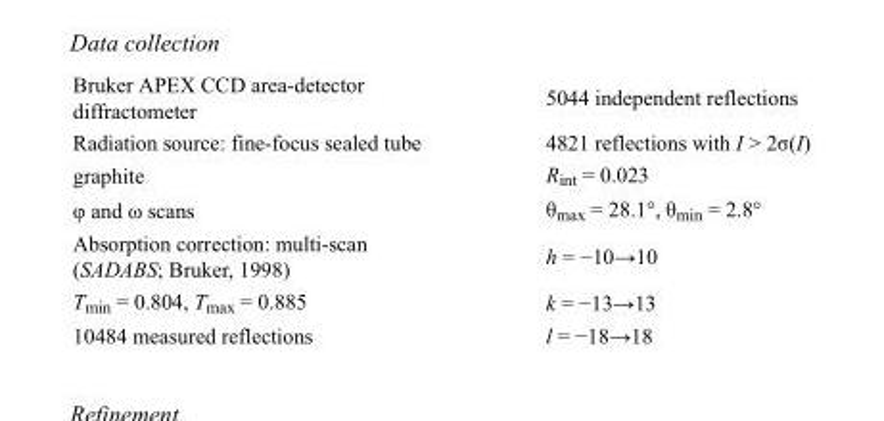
<table><tbody><tr><td>Bruker APEX CCD area-detector diffractometer</td><td>5044 independent reflections</td></tr><tr><td>Radiation source: fine-focus sealed tube</td><td>4821 reflections with I &gt; 2σ(I)</td></tr><tr><td>graphite</td><td>R<sub>int</sub> = 0.023</td></tr><tr><td>φ and ω scans</td><td>θ<sub>max</sub> = 28.1°, θ<sub>min</sub> = 2.8°</td></tr><tr><td>Absorption correction: multi-scan (SADABS; Bruker, 1998)</td><td>h = −10→10</td></tr><tr><td>T<sub>min</sub> = 0.804, T<sub>max</sub> = 0.885</td><td>k = −13→13</td></tr><tr><td>10484 measured reflections</td><td>l = −18→18</td></tr></tbody></table>